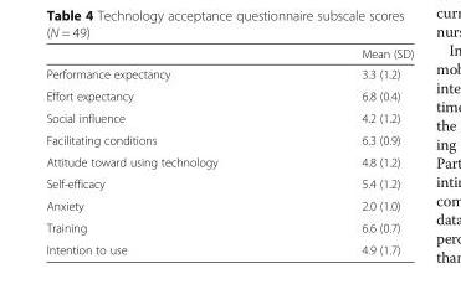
<table><thead><tr><td></td><td>Mean (SD)</td></tr></thead><tbody><tr><td>Performance expectancy</td><td>3.3 (1.2)</td></tr><tr><td>Effort expectancy</td><td>6.8 (0.4)</td></tr><tr><td>Social influence</td><td>4.2 (1.2)</td></tr><tr><td>Facilitating conditions</td><td>6.3 (0.9)</td></tr><tr><td>Attitude toward using technology</td><td>4.8 (1.2)</td></tr><tr><td>Self-efficacy</td><td>5.4 (1.2)</td></tr><tr><td>Anxiety</td><td>2.0 (1.0)</td></tr><tr><td>Training</td><td>6.6 (0.7)</td></tr><tr><td>Intention to use</td><td>4.9 (1.7)</td></tr></tbody></table>